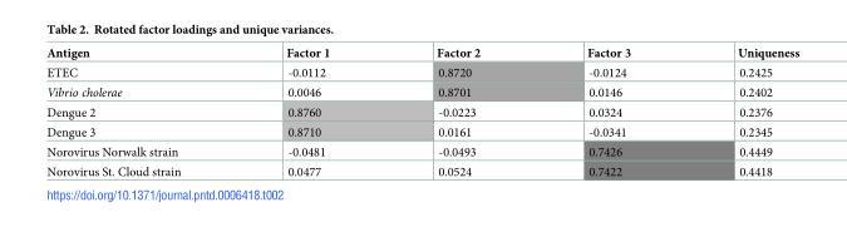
<table><thead><tr><td>Antigen</td><td>Factor 1</td><td>Factor 2</td><td>Factor 3</td><td>Uniqueness</td></tr></thead><tbody><tr><td>ETEC</td><td>-0.0112</td><td>0.8720</td><td>-0.0124</td><td>0.2425</td></tr><tr><td>Vibrio cholerae</td><td>0.0046</td><td>0.8701</td><td>0.0146</td><td>0.2402</td></tr><tr><td>Dengue 2</td><td>0.8760</td><td>-0.0223</td><td>0.0324</td><td>0.2376</td></tr><tr><td>Dengue 3</td><td>0.8710</td><td>0.0161</td><td>-0.0341</td><td>0.2345</td></tr><tr><td>Norovirus Norwalk strain</td><td>-0.0481</td><td>-0.0493</td><td>0.7426</td><td>0.4449</td></tr><tr><td>Norovirus St. Cloud strain</td><td>0.0477</td><td>0.0524</td><td>0.7422</td><td>0.4418</td></tr></tbody></table>